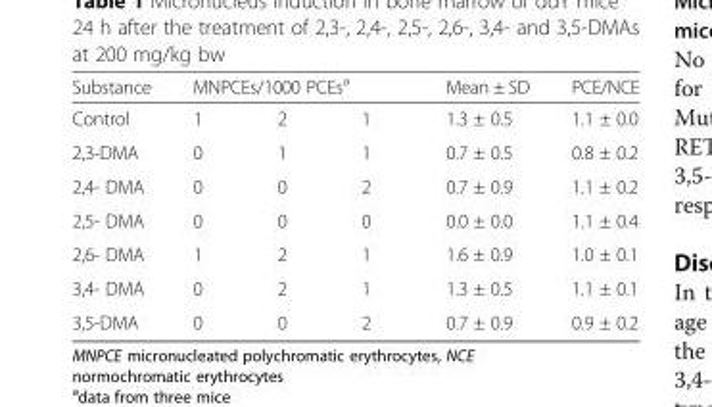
<table><thead><tr><td rowspan="2">Substance Control</td><td colspan="3">MNPCEs/1000 PCEs<sup>a</sup></td><td rowspan="2">Mean ± SD 1.3 ± 0.5</td><td rowspan="2">PCE/NCE 1.1 ± 0.0</td></tr><tr><td>1</td><td>2</td><td>1</td></tr></thead><tbody><tr><td>2,3-DMA</td><td>0</td><td>1</td><td>1</td><td>0.7 ± 0.5</td><td>0.8 ± 0.2</td></tr><tr><td>2,4- DMA</td><td>0</td><td>0</td><td>2</td><td>0.7 ± 0.9</td><td>1.1 ± 0.2</td></tr><tr><td>2,5- DMA</td><td>0</td><td>0</td><td>0</td><td>0.0 ± 0.0</td><td>1.1 ± 0.4</td></tr><tr><td>2,6- DMA</td><td>1</td><td>2</td><td>1</td><td>1.6 ± 0.9</td><td>1.0 ± 0.1</td></tr><tr><td>3,4- DMA</td><td>0</td><td>2</td><td>1</td><td>1.3 ± 0.5</td><td>1.1 ± 0.1</td></tr><tr><td>3,5-DMA</td><td>0</td><td>0</td><td>2</td><td>0.7 ± 0.9</td><td>0.9 ± 0.2</td></tr></tbody></table>